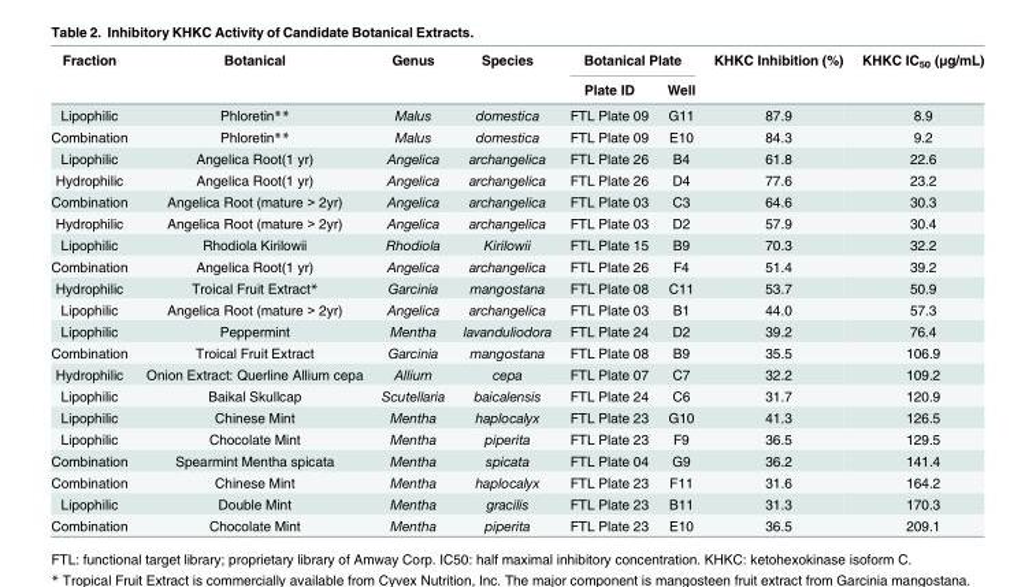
<table><thead><tr><td rowspan="2">Fraction</td><td rowspan="2">Botanical</td><td rowspan="2">Genus</td><td rowspan="2">Species</td><td colspan="2">Botanical Plate</td><td rowspan="2">KHKC Inhibition (%)</td><td rowspan="2">KHKC IC<sub>50</sub> (μg/mL)</td></tr><tr><td>Plate ID</td><td>Well</td></tr></thead><tbody><tr><td>Lipophilic</td><td>Phloretin**</td><td>Malus</td><td>domestica</td><td>FTL Plate 09</td><td>G11</td><td>87.9</td><td>8.9</td></tr><tr><td>Combination</td><td>Phloretin**</td><td>Malus</td><td>domestica</td><td>FTL Plate 09</td><td>E10</td><td>84.3</td><td>9.2</td></tr><tr><td>Lipophilic</td><td>Angelica Root(1 yr)</td><td>Angelica</td><td>archangelica</td><td>FTL Plate 26</td><td>B4</td><td>61.8</td><td>22.6</td></tr><tr><td>Hydrophilic</td><td>Angelica Root(1 yr)</td><td>Angelica</td><td>archangelica</td><td>FTL Plate 26</td><td>D4</td><td>77.6</td><td>23.2</td></tr><tr><td>Combination</td><td>Angelica Root (mature &gt; 2yr)</td><td>Angelica</td><td>archangelica</td><td>FTL Plate 03</td><td>C3</td><td>64.6</td><td>30.3</td></tr><tr><td>Hydrophilic</td><td>Angelica Root (mature &gt; 2yr)</td><td>Angelica</td><td>archangelica</td><td>FTL Plate 03</td><td>D2</td><td>57.9</td><td>30.4</td></tr><tr><td>Lipophilic</td><td>Rhodiola Kirilowii</td><td>Rhodiola</td><td>Kirilowii</td><td>FTL Plate 15</td><td>B9</td><td>70.3</td><td>32.2</td></tr><tr><td>Combination</td><td>Angelica Root(1 yr)</td><td>Angelica</td><td>archangelica</td><td>FTL Plate 26</td><td>F4</td><td>51.4</td><td>39.2</td></tr><tr><td>Hydrophilic</td><td>Troical Fruit Extract*</td><td>Garcinia</td><td>mangostana</td><td>FTL Plate 08</td><td>C11</td><td>53.7</td><td>50.9</td></tr><tr><td>Lipophilic</td><td>Angelica Root (mature &gt; 2yr)</td><td>Angelica</td><td>archangelica</td><td>FTL Plate 03</td><td>B1</td><td>44.0</td><td>57.3</td></tr><tr><td>Lipophilic</td><td>Peppermint</td><td>Mentha</td><td>lavanduliodora</td><td>FTL Plate 24</td><td>D2</td><td>39.2</td><td>76.4</td></tr><tr><td>Combination</td><td>Troical Fruit Extract</td><td>Garcinia</td><td>mangostana</td><td>FTL Plate 08</td><td>B9</td><td>35.5</td><td>106.9</td></tr><tr><td>Hydrophilic</td><td>Onion Extract: Querline Allium cepa</td><td>Allium</td><td>cepa</td><td>FTL Plate 07</td><td>C7</td><td>32.2</td><td>109.2</td></tr><tr><td>Lipophilic</td><td>Baikal Skullcap</td><td>Scutellaria</td><td>baicalensis</td><td>FTL Plate 24</td><td>C6</td><td>31.7</td><td>120.9</td></tr><tr><td>Lipophilic</td><td>Chinese Mint</td><td>Mentha</td><td>haplocalyx</td><td>FTL Plate 23</td><td>G10</td><td>41.3</td><td>126.5</td></tr><tr><td>Lipophilic</td><td>Chocolate Mint</td><td>Mentha</td><td>piperita</td><td>FTL Plate 23</td><td>F9</td><td>36.5</td><td>129.5</td></tr><tr><td>Combination</td><td>Spearmint Mentha spicata</td><td>Mentha</td><td>spicata</td><td>FTL Plate 04</td><td>G9</td><td>36.2</td><td>141.4</td></tr><tr><td>Combination</td><td>Chinese Mint</td><td>Mentha</td><td>haplocalyx</td><td>FTL Plate 23</td><td>F11</td><td>31.6</td><td>164.2</td></tr><tr><td>Lipophilic</td><td>Double Mint</td><td>Mentha</td><td>gracilis</td><td>FTL Plate 23</td><td>B11</td><td>31.3</td><td>170.3</td></tr><tr><td>Combination</td><td>Chocolate Mint</td><td>Mentha</td><td>piperita</td><td>FTL Plate 23</td><td>E10</td><td>36.5</td><td>209.1</td></tr></tbody></table>